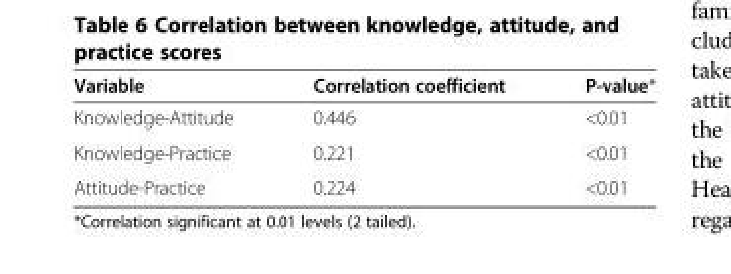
<table><thead><tr><td>Variable</td><td>Correlation coefficient</td><td>P-value*</td></tr></thead><tbody><tr><td>Knowledge-Attitude</td><td>0.446</td><td>&lt;0.01</td></tr><tr><td>Knowledge-Practice</td><td>0.221</td><td>&lt;0.01</td></tr><tr><td>Attitude-Practice</td><td>0.224</td><td>&lt;0.01</td></tr></tbody></table>